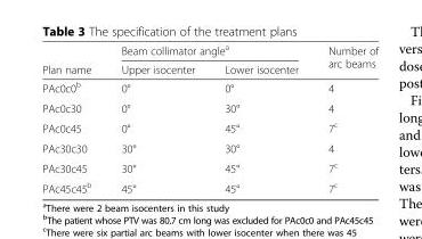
<table><thead><tr><td rowspan="2">Plan name</td><td colspan="2">Beam collimator angle<sup>a</sup></td><td rowspan="2">Number of arc beams</td></tr><tr><td>Upper isocenter</td><td>Lower isocenter</td></tr></thead><tbody><tr><td>PAc0c0<sup>b</sup></td><td>0°</td><td>0°</td><td>4</td></tr><tr><td>PAc0c30</td><td>0°</td><td>30°</td><td>4</td></tr><tr><td>PAc0c45</td><td>0°</td><td>45°</td><td>7<sup>c</sup></td></tr><tr><td>PAc30c30</td><td>30°</td><td>30°</td><td>4</td></tr><tr><td>PAc30c45</td><td>30°</td><td>45°</td><td>7<sup>c</sup></td></tr><tr><td>PAc45c45<sup>b</sup></td><td>45°</td><td>45°</td><td>7<sup>c</sup></td></tr></tbody></table>